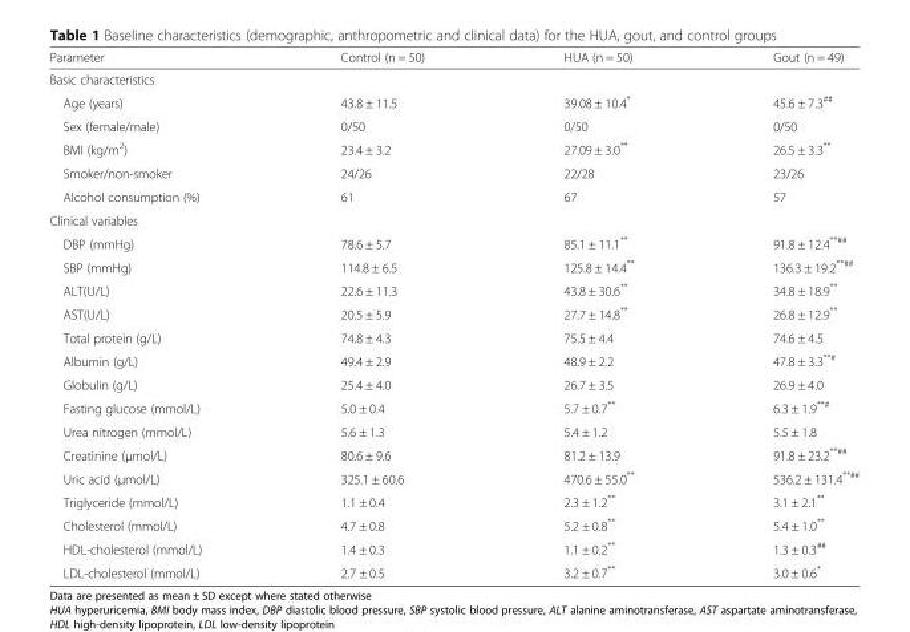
<table><thead><tr><td>Parameter</td><td>Control (n = 50)</td><td>HUA (n = 50)</td><td>Gout (n = 49)</td></tr></thead><tbody><tr><td colspan="4">Basic characteristics</td></tr><tr><td>Age (years)</td><td>43.8 ± 11.5</td><td>39.08 ± 10.4*</td><td>45.6 ± 7.3<sup>##</sup></td></tr><tr><td>Sex (female/male)</td><td>0/50</td><td>0/50</td><td>0/50</td></tr><tr><td>BMI (kg/m<sup>2</sup>)</td><td>23.4 ± 3.2</td><td>27.09 ± 3.0**</td><td>26.5 ± 3.3**</td></tr><tr><td>Smoker/non-smoker</td><td>24/26</td><td>22/28</td><td>23/26</td></tr><tr><td>Alcohol consumption (%)</td><td>61</td><td>67</td><td>57</td></tr><tr><td colspan="4">Clinical variables</td></tr><tr><td>DBP (mmHg)</td><td>78.6 ± 5.7</td><td>85.1 ± 11.1**</td><td>91.8 ± 12.4<sup>**##</sup></td></tr><tr><td>SBP (mmHg)</td><td>114.8 ± 6.5</td><td>125.8 ± 14.4**</td><td>136.3 ± 19.2<sup>**##</sup></td></tr><tr><td>ALT(U/L)</td><td>22.6 ± 11.3</td><td>43.8 ± 30.6**</td><td>34.8 ± 18.9**</td></tr><tr><td>AST(U/L)</td><td>20.5 ± 5.9</td><td>27.7 ± 14.8**</td><td>26.8 ± 12.9**</td></tr><tr><td>Total protein (g/L)</td><td>74.8 ± 4.3</td><td>75.5 ± 4.4</td><td>74.6 ± 4.5</td></tr><tr><td>Albumin (g/L)</td><td>49.4 ± 2.9</td><td>48.9 ± 2.2</td><td>47.8 ± 3.3<sup>**#</sup></td></tr><tr><td>Globulin (g/L)</td><td>25.4 ± 4.0</td><td>26.7 ± 3.5</td><td>26.9 ± 4.0</td></tr><tr><td>Fasting glucose (mmol/L)</td><td>5.0 ± 0.4</td><td>5.7 ± 0.7**</td><td>6.3 ± 1.9<sup>**#</sup></td></tr><tr><td>Urea nitrogen (mmol/L)</td><td>5.6 ± 1.3</td><td>5.4 ± 1.2</td><td>5.5 ± 1.8</td></tr><tr><td>Creatinine (μmol/L)</td><td>80.6 ± 9.6</td><td>81.2 ± 13.9</td><td>91.8 ± 23.2<sup>**##</sup></td></tr><tr><td>Uric acid (μmol/L)</td><td>325.1 ± 60.6</td><td>470.6 ± 55.0**</td><td>536.2 ± 131.4<sup>**##</sup></td></tr><tr><td>Triglyceride (mmol/L)</td><td>1.1 ± 0.4</td><td>2.3 ± 1.2**</td><td>3.1 ± 2.1**</td></tr><tr><td>Cholesterol (mmol/L)</td><td>4.7 ± 0.8</td><td>5.2 ± 0.8**</td><td>5.4 ± 1.0**</td></tr><tr><td>HDL-cholesterol (mmol/L)</td><td>1.4 ± 0.3</td><td>1.1 ± 0.2**</td><td>1.3 ± 0.3<sup>##</sup></td></tr><tr><td>LDL-cholesterol (mmol/L)</td><td>2.7 ± 0.5</td><td>3.2 ± 0.7**</td><td>3.0 ± 0.6*</td></tr></tbody></table>